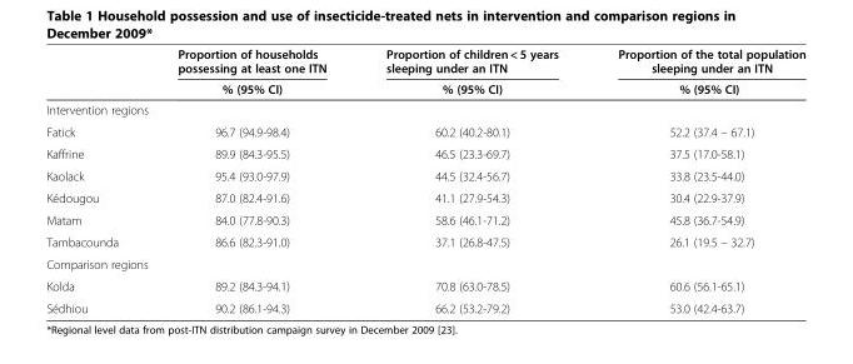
<table><thead><tr><td rowspan="2"></td><td rowspan="2">Proportion of households possessing at least one ITN % (95% CI)</td><td rowspan="2">Proportion of children &lt; 5 years sleeping under an ITN % (95% CI)</td><td rowspan="2">Proportion of the total population sleeping under an ITN % (95% CI)</td></tr><tr></tr></thead><tbody><tr><td colspan="4">Intervention regions</td></tr><tr><td>Fatick</td><td>96.7 (94.9-98.4)</td><td>60.2 (40.2-80.1)</td><td>52.2 (37.4 – 67.1)</td></tr><tr><td>Kaffrine</td><td>89.9 (84.3-95.5)</td><td>46.5 (23.3-69.7)</td><td>37.5 (17.0-58.1)</td></tr><tr><td>Kaolack</td><td>95.4 (93.0-97.9)</td><td>44.5 (32.4-56.7)</td><td>33.8 (23.5-44.0)</td></tr><tr><td>Kédougou</td><td>87.0 (82.4-91.6)</td><td>41.1 (27.9-54.3)</td><td>30.4 (22.9-37.9)</td></tr><tr><td>Matam</td><td>84.0 (77.8-90.3)</td><td>58.6 (46.1-71.2)</td><td>45.8 (36.7-54.9)</td></tr><tr><td>Tambacounda</td><td>86.6 (82.3-91.0)</td><td>37.1 (26.8-47.5)</td><td>26.1 (19.5 – 32.7)</td></tr><tr><td colspan="4">Comparison regions</td></tr><tr><td>Kolda</td><td>89.2 (84.3-94.1)</td><td>70.8 (63.0-78.5)</td><td>60.6 (56.1-65.1)</td></tr><tr><td>Sédhiou</td><td>90.2 (86.1-94.3)</td><td>66.2 (53.2-79.2)</td><td>53.0 (42.4-63.7)</td></tr></tbody></table>